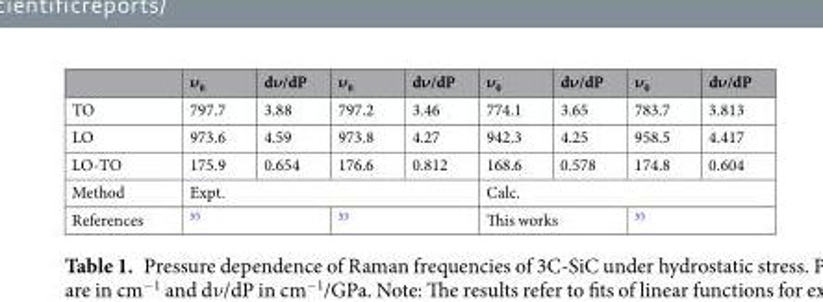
<table><thead><tr><td></td><td>ν<sub>0</sub></td><td>dν/dP</td><td>ν<sub>0</sub></td><td>dν/dP</td><td>ν<sub>0</sub></td><td>dν/dP</td><td>ν<sub>0</sub></td><td>dν/dP</td></tr></thead><tbody><tr><td>TO</td><td>797.7</td><td>3.88</td><td>797.2</td><td>3.46</td><td>774.1</td><td>3.65</td><td>783.7</td><td>3.813</td></tr><tr><td>LO</td><td>973.6</td><td>4.59</td><td>973.8</td><td>4.27</td><td>942.3</td><td>4.25</td><td>958.5</td><td>4.417</td></tr><tr><td>LO-TO</td><td>175.9</td><td>0.654</td><td>176.6</td><td>0.812</td><td>168.6</td><td>0.578</td><td>174.8</td><td>0.604</td></tr><tr><td>Method</td><td colspan="4">Expt.</td><td colspan="4">Calc.</td></tr><tr><td>References</td><td colspan="2"><sup>55</sup></td><td colspan="2"><sup>53</sup></td><td colspan="2">This works</td><td colspan="2"><sup>55</sup></td></tr></tbody></table>